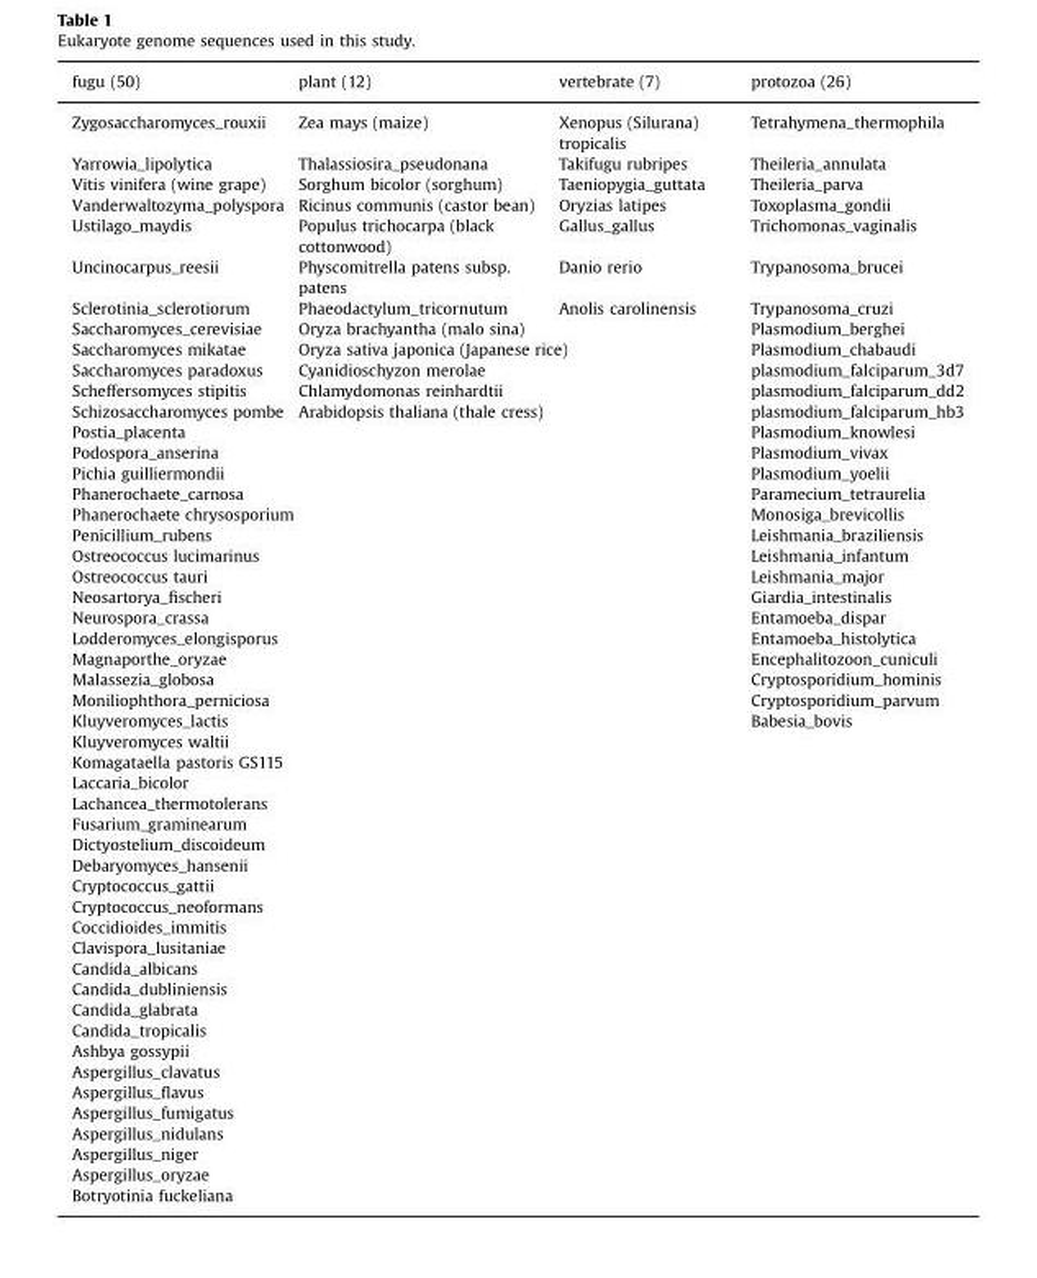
<table><thead><tr><td>fugu (50)</td><td>plant (12)</td><td>vertebrate (7)</td><td>protozoa (26)</td></tr></thead><tbody><tr><td>Zygosaccharomyces_rouxii</td><td>Zea mays (maize)</td><td>Xenopus (Silurana) tropicalis</td><td>Tetrahymena_thermophila</td></tr><tr><td>Yarrowia_lipolytica</td><td>Thalassiosira_pseudonana</td><td>Takifugu rubripes</td><td>Theileria_annulata</td></tr><tr><td>Vitis vinifera (wine grape)</td><td>Sorghum bicolor (sorghum)</td><td>Taeniopygia_guttata</td><td>Theileria_parva</td></tr><tr><td>Vanderwaltozyma_polyspora</td><td>Ricinus communis (castor bean)</td><td>Oryzias latipes</td><td>Toxoplasma_gondii</td></tr><tr><td>Ustilago_maydis</td><td>Populus trichocarpa (black cottonwood)</td><td>Gallus_gallus</td><td>Trichomonas_vaginalis</td></tr><tr><td>Uncinocarpus_reesii</td><td>Physcomitrella patens subsp. patens</td><td>Danio rerio</td><td>Trypanosoma_brucei</td></tr><tr><td>Sclerotinia_sclerotiorum</td><td>Phaeodactylum_tricornutum</td><td>Anolis carolinensis</td><td>Trypanosoma_cruzi</td></tr><tr><td>Saccharomyces_cerevisiae</td><td>Oryza brachyantha (malo sina)</td><td></td><td>Plasmodium_berghei</td></tr><tr><td>Saccharomyces mikatae</td><td colspan="2">Oryza sativa japonica (Japanese rice)</td><td>Plasmodium_chabaudi</td></tr><tr><td>Saccharomyces paradoxus</td><td>Cyanidioschyzon merolae</td><td></td><td>plasmodium_falciparum_3d7</td></tr><tr><td>Scheffersomyces stipitis</td><td>Chlamydomonas reinhardtii</td><td></td><td>plasmodium_falciparum_dd2</td></tr><tr><td>Schizosaccharomyces pombe</td><td>Arabidopsis thaliana (thale cress)</td><td></td><td>plasmodium_falciparum_hb3</td></tr><tr><td>Postia_placenta</td><td></td><td></td><td>Plasmodium_knowlesi</td></tr><tr><td>Podospora_anserina</td><td></td><td></td><td>Plasmodium_vivax</td></tr><tr><td>Pichia guilliermondii</td><td></td><td></td><td>Plasmodium_yoelii</td></tr><tr><td>Phanerochaete_carnosa</td><td></td><td></td><td>Paramecium_tetraurelia</td></tr><tr><td colspan="2">Phanerochaete chrysosporium</td><td></td><td>Monosiga_brevicollis</td></tr><tr><td>Penicillium_rubens</td><td></td><td></td><td>Leishmania_braziliensis</td></tr><tr><td colspan="2">Ostreococcus lucimarinus</td><td></td><td>Leishmania_infantum</td></tr><tr><td>Ostreococcus tauri</td><td></td><td></td><td>Leishmania_major</td></tr><tr><td>Neosartorya_fischeri</td><td></td><td></td><td>Giardia_intestinalis</td></tr><tr><td>Neurospora_crassa</td><td></td><td></td><td>Entamoeba_dispar</td></tr><tr><td colspan="2">Lodderomyces_elongisporus</td><td></td><td>Entamoeba_histolytica</td></tr><tr><td>Magnaporthe_oryzae</td><td></td><td></td><td>Encephalitozoon_cuniculi</td></tr><tr><td>Malassezia_globosa</td><td></td><td></td><td>Cryptosporidium_hominis</td></tr><tr><td colspan="2">Moniliophthora_perniciosa</td><td></td><td>Cryptosporidium_parvum</td></tr><tr><td>Kluyveromyces_lactis</td><td></td><td></td><td>Babesia_bovis</td></tr><tr><td colspan="4">Kluyveromyces waltii</td></tr><tr><td colspan="4">Komagataella pastoris GS115</td></tr><tr><td colspan="4">Laccaria_bicolor</td></tr><tr><td colspan="4">Lachancea_thermotolerans</td></tr><tr><td colspan="4">Fusarium_graminearum</td></tr><tr><td colspan="4">Dictyostelium_discoideum</td></tr><tr><td colspan="4">Debaryomyces_hansenii</td></tr><tr><td colspan="4">Cryptococcus_gattii</td></tr><tr><td colspan="4">Cryptococcus_neoformans</td></tr><tr><td colspan="4">Coccidioides_immitis</td></tr><tr><td colspan="4">Clavispora_lusitaniae</td></tr><tr><td colspan="4">Candida_albicans</td></tr><tr><td colspan="4">Candida_dubliniensis</td></tr><tr><td colspan="4">Candida_glabrata</td></tr><tr><td colspan="4">Candida_tropicalis</td></tr><tr><td colspan="4">Ashbya gossypii</td></tr><tr><td colspan="4">Aspergillus_clavatus</td></tr><tr><td colspan="4">Aspergillus_flavus</td></tr><tr><td colspan="4">Aspergillus_fumigatus</td></tr><tr><td colspan="4">Aspergillus_nidulans</td></tr><tr><td colspan="4">Aspergillus_niger</td></tr><tr><td colspan="4">Aspergillus_oryzae</td></tr><tr><td colspan="2">Botryotinia fuckeliana</td><td></td><td></td></tr></tbody></table>